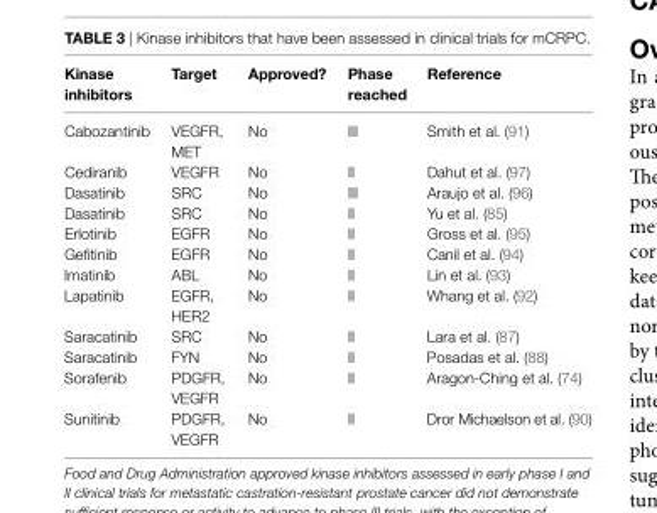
<table><thead><tr><td>Kinase inhibitors</td><td>Target</td><td>Approved?</td><td>Phase reached</td><td>Reference</td></tr></thead><tbody><tr><td>Cabozantinib</td><td>VEGFR, MET</td><td>No</td><td>III</td><td>Smith et al. (91)</td></tr><tr><td>Cediranib</td><td>VEGFR</td><td>No</td><td>II</td><td>Dahut et al. (97)</td></tr><tr><td>Dasatinib</td><td>SRC</td><td>No</td><td>III</td><td>Araujo et al. (96)</td></tr><tr><td>Dasatinib</td><td>SRC</td><td>No</td><td>II</td><td>Yu et al. (85)</td></tr><tr><td>Erlotinib</td><td>EGFR</td><td>No</td><td>II</td><td>Gross et al. (95)</td></tr><tr><td>Gefitinib</td><td>EGFR</td><td>No</td><td>II</td><td>Canil et al. (94)</td></tr><tr><td>Imatinib</td><td>ABL</td><td>No</td><td>II</td><td>Lin et al. (93)</td></tr><tr><td>Lapatinib</td><td>EGFR, HER2</td><td>No</td><td>II</td><td>Whang et al. (92)</td></tr><tr><td>Saracatinib</td><td>SRC</td><td>No</td><td>II</td><td>Lara et al. (87)</td></tr><tr><td>Saracatinib</td><td>FYN</td><td>No</td><td>II</td><td>Posadas et al. (88)</td></tr><tr><td>Sorafenib</td><td>PDGFR, VEGFR</td><td>No</td><td>II</td><td>Aragon-Ching et al. (74)</td></tr><tr><td>Sunitinib</td><td>PDGFR, VEGFR</td><td>No</td><td>II</td><td>Dror Michaelson et al. (90)</td></tr></tbody></table>